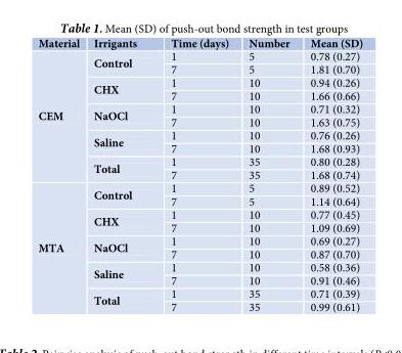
<table><thead><tr><td>Material</td><td>Irrigants</td><td>Time (days)</td><td>Number</td><td>Mean (SD)</td></tr></thead><tbody><tr><td rowspan="10">CEM</td><td rowspan="2">Control</td><td>1</td><td>5</td><td>0.78 (0.27)</td></tr><tr><td>7</td><td>5</td><td>1.81 (0.70)</td></tr><tr><td rowspan="2">CHX</td><td>1</td><td>10</td><td>0.94 (0.26)</td></tr><tr><td>7</td><td>10</td><td>1.66 (0.66)</td></tr><tr><td rowspan="2">NaOCl</td><td>1</td><td>10</td><td>0.71 (0.32)</td></tr><tr><td>7</td><td>10</td><td>1.63 (0.75)</td></tr><tr><td rowspan="2">Saline</td><td>1</td><td>10</td><td>0.76 (0.26)</td></tr><tr><td>7</td><td>10</td><td>1.68 (0.93)</td></tr><tr><td rowspan="2">Total</td><td>1</td><td>35</td><td>0.80 (0.28)</td></tr><tr><td>7</td><td>35</td><td>1.68 (0.74)</td></tr><tr><td rowspan="10">MTA</td><td rowspan="2">Control</td><td>1</td><td>5</td><td>0.89 (0.52)</td></tr><tr><td>7</td><td>5</td><td>1.14 (0.64)</td></tr><tr><td rowspan="2">CHX</td><td>1</td><td>10</td><td>0.77 (0.45)</td></tr><tr><td>7</td><td>10</td><td>1.09 (0.69)</td></tr><tr><td rowspan="2">NaOCl</td><td>1</td><td>10</td><td>0.69 (0.27)</td></tr><tr><td>7</td><td>10</td><td>0.87 (0.70)</td></tr><tr><td rowspan="2">Saline</td><td>1</td><td>10</td><td>0.58 (0.36)</td></tr><tr><td>7</td><td>10</td><td>0.91 (0.46)</td></tr><tr><td rowspan="2">Total</td><td>1</td><td>35</td><td>0.71 (0.39)</td></tr><tr><td>7</td><td>35</td><td>0.99 (0.61)</td></tr></tbody></table>